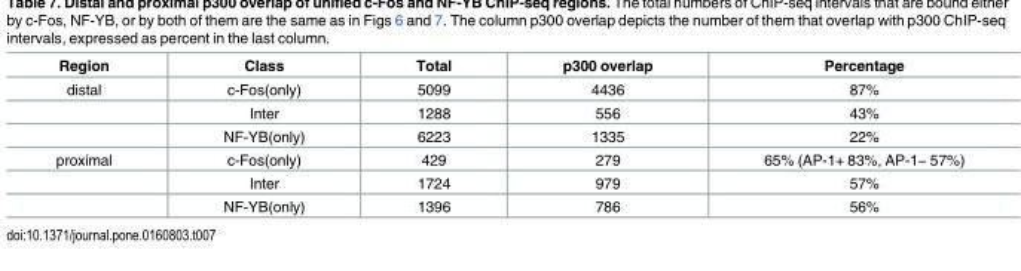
<table><thead><tr><td>Region</td><td>Class</td><td>Total</td><td>p300 overlap</td><td>Percentage</td></tr></thead><tbody><tr><td rowspan="3">distal</td><td>c-Fos(only)</td><td>5099</td><td>4436</td><td>87%</td></tr><tr><td>Inter</td><td>1288</td><td>556</td><td>43%</td></tr><tr><td>NF-YB(only)</td><td>6223</td><td>1335</td><td>22%</td></tr><tr><td rowspan="3">proximal</td><td>c-Fos(only)</td><td>429</td><td>279</td><td>65% (AP-1+ 83%, AP-1− 57%)</td></tr><tr><td>Inter</td><td>1724</td><td>979</td><td>57%</td></tr><tr><td>NF-YB(only)</td><td>1396</td><td>786</td><td>56%</td></tr></tbody></table>